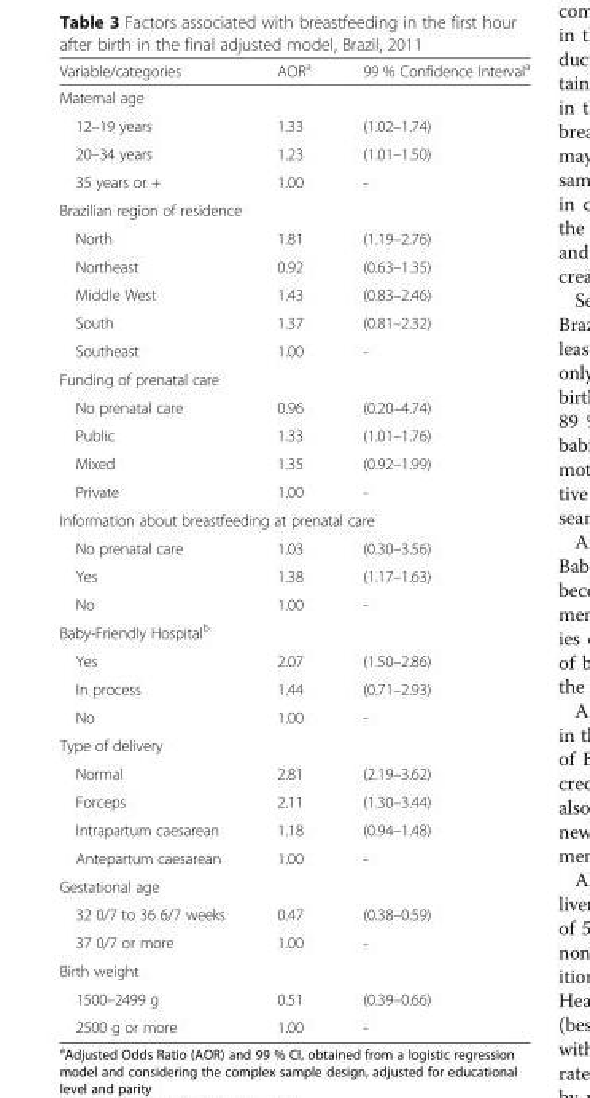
<table><thead><tr><td>Variable/categories</td><td>AOR<sup>a</sup></td><td>99 % Confidence Interval<sup>a</sup></td></tr></thead><tbody><tr><td colspan="3">Maternal age</td></tr><tr><td>12–19 years</td><td>1.33</td><td>(1.02–1.74)</td></tr><tr><td>20–34 years</td><td>1.23</td><td>(1.01–1.50)</td></tr><tr><td>35 years or +</td><td>1.00</td><td>-</td></tr><tr><td colspan="3">Brazilian region of residence</td></tr><tr><td>North</td><td>1.81</td><td>(1.19–2.76)</td></tr><tr><td>Northeast</td><td>0.92</td><td>(0.63–1.35)</td></tr><tr><td>Middle West</td><td>1.43</td><td>(0.83–2.46)</td></tr><tr><td>South</td><td>1.37</td><td>(0.81–2.32)</td></tr><tr><td>Southeast</td><td>1.00</td><td>-</td></tr><tr><td colspan="3">Funding of prenatal care</td></tr><tr><td>No prenatal care</td><td>0.96</td><td>(0.20–4.74)</td></tr><tr><td>Public</td><td>1.33</td><td>(1.01–1.76)</td></tr><tr><td>Mixed</td><td>1.35</td><td>(0.92–1.99)</td></tr><tr><td>Private</td><td>1.00</td><td>-</td></tr><tr><td colspan="3">Information about breastfeeding at prenatal care</td></tr><tr><td>No prenatal care</td><td>1.03</td><td>(0.30–3.56)</td></tr><tr><td>Yes</td><td>1.38</td><td>(1.17–1.63)</td></tr><tr><td>No</td><td>1.00</td><td>-</td></tr><tr><td colspan="3">Baby-Friendly Hospital<sup>b</sup></td></tr><tr><td>Yes</td><td>2.07</td><td>(1.50–2.86)</td></tr><tr><td>In process</td><td>1.44</td><td>(0.71–2.93)</td></tr><tr><td>No</td><td>1.00</td><td>-</td></tr><tr><td colspan="3">Type of delivery</td></tr><tr><td>Normal</td><td>2.81</td><td>(2.19–3.62)</td></tr><tr><td>Forceps</td><td>2.11</td><td>(1.30–3.44)</td></tr><tr><td>Intrapartum caesarean</td><td>1.18</td><td>(0.94–1.48)</td></tr><tr><td>Antepartum caesarean</td><td>1.00</td><td>-</td></tr><tr><td colspan="3">Gestational age</td></tr><tr><td>32 0/7 to 36 6/7 weeks</td><td>0.47</td><td>(0.38–0.59)</td></tr><tr><td>37 0/7 or more</td><td>1.00</td><td>-</td></tr><tr><td colspan="3">Birth weight</td></tr><tr><td>1500–2499 g</td><td>0.51</td><td>(0.39–0.66)</td></tr><tr><td>2500 g or more</td><td>1.00</td><td>-</td></tr></tbody></table>